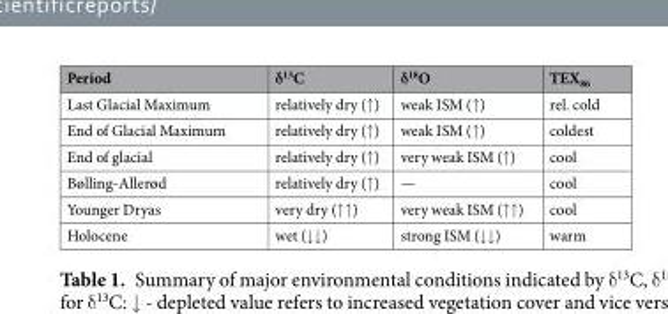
<table><thead><tr><td>Period</td><td>δ<sup>13</sup>C</td><td>δ<sup>18</sup>O</td><td>TEX<sub>86</sub></td></tr></thead><tbody><tr><td>Last Glacial Maximum</td><td>relatively dry (↑)</td><td>weak ISM (↑)</td><td>rel. cold</td></tr><tr><td>End of Glacial Maximum</td><td>relatively dry (↑)</td><td>weak ISM (↑)</td><td>coldest</td></tr><tr><td>End of glacial</td><td>relatively dry (↑)</td><td>very weak ISM (↑)</td><td>cool</td></tr><tr><td>Bølling-Allerød</td><td>relatively dry (↑)</td><td>—</td><td>cool</td></tr><tr><td>Younger Dryas</td><td>very dry (↑↑)</td><td>very weak ISM (↑↑)</td><td>cool</td></tr><tr><td>Holocene</td><td>wet (↓↓)</td><td>strong ISM (↓↓)</td><td>warm</td></tr></tbody></table>